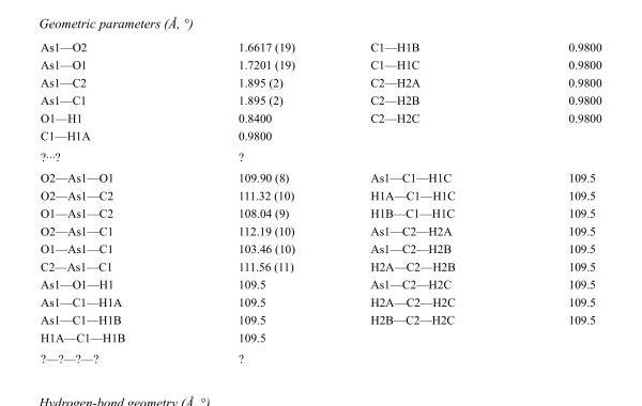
<table><tbody><tr><td>As1—O2</td><td>1.6617 (19)</td><td>C1—H1B</td><td>0.9800</td></tr><tr><td>As1—O1</td><td>1.7201 (19)</td><td>C1—H1C</td><td>0.9800</td></tr><tr><td>As1—C2</td><td>1.895 (2)</td><td>C2—H2A</td><td>0.9800</td></tr><tr><td>As1—C1</td><td>1.895 (2)</td><td>C2—H2B</td><td>0.9800</td></tr><tr><td>O1—H1</td><td>0.8400</td><td>C2—H2C</td><td>0.9800</td></tr><tr><td>C1—H1A</td><td>0.9800</td><td></td><td></td></tr><tr><td>?···?</td><td>?</td><td></td><td></td></tr><tr><td>O2—As1—O1</td><td>109.90 (8)</td><td>As1—C1—H1C</td><td>109.5</td></tr><tr><td>O2—As1—C2</td><td>111.32 (10)</td><td>H1A—C1—H1C</td><td>109.5</td></tr><tr><td>O1—As1—C2</td><td>108.04 (9)</td><td>H1B—C1—H1C</td><td>109.5</td></tr><tr><td>O2—As1—C1</td><td>112.19 (10)</td><td>As1—C2—H2A</td><td>109.5</td></tr><tr><td>O1—As1—C1</td><td>103.46 (10)</td><td>As1—C2—H2B</td><td>109.5</td></tr><tr><td>C2—As1—C1</td><td>111.56 (11)</td><td>H2A—C2—H2B</td><td>109.5</td></tr><tr><td>As1—O1—H1</td><td>109.5</td><td>As1—C2—H2C</td><td>109.5</td></tr><tr><td>As1—C1—H1A</td><td>109.5</td><td>H2A—C2—H2C</td><td>109.5</td></tr><tr><td>As1—C1—H1B</td><td>109.5</td><td>H2B—C2—H2C</td><td>109.5</td></tr><tr><td>H1A—C1—H1B</td><td>109.5</td><td></td><td></td></tr><tr><td>?—?—?—?</td><td>?</td><td></td><td></td></tr></tbody></table>